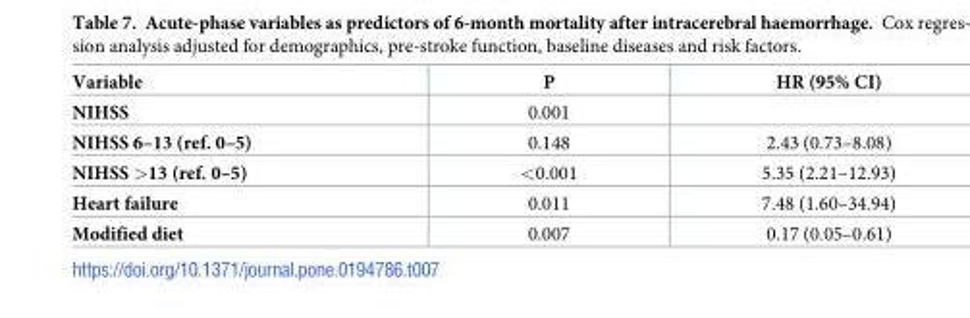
<table><thead><tr><td>Variable</td><td>P</td><td>HR (95% CI)</td></tr></thead><tbody><tr><td>NIHSS</td><td>0.001</td><td></td></tr><tr><td>NIHSS 6–13 (ref. 0–5)</td><td>0.148</td><td>2.43 (0.73–8.08)</td></tr><tr><td>NIHSS &gt;13 (ref. 0–5)</td><td>&lt;0.001</td><td>5.35 (2.21–12.93)</td></tr><tr><td>Heart failure</td><td>0.011</td><td>7.48 (1.60–34.94)</td></tr><tr><td>Modified diet</td><td>0.007</td><td>0.17 (0.05–0.61)</td></tr></tbody></table>